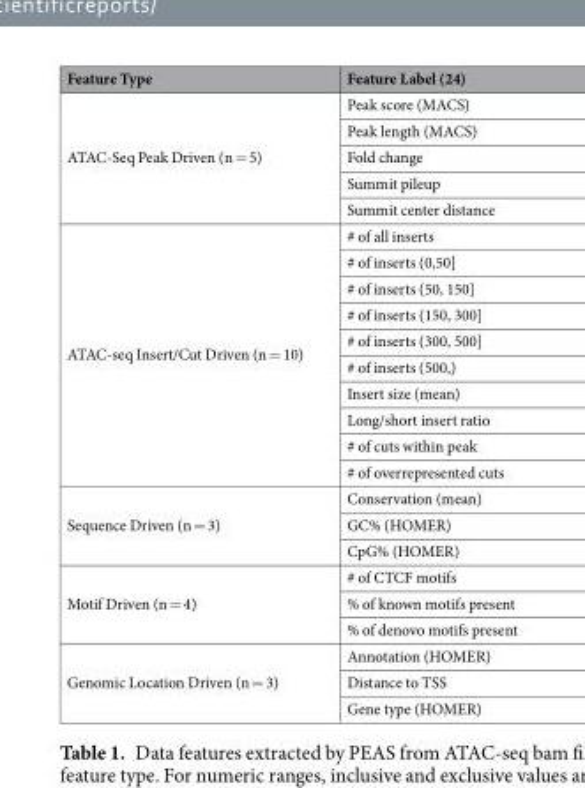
<table><thead><tr><td>Feature Type</td><td>Feature Label (24)</td></tr></thead><tbody><tr><td rowspan="5">ATAC-Seq Peak Driven (n = 5)</td><td>Peak score (MACS)</td></tr><tr><td>Peak length (MACS)</td></tr><tr><td>Fold change</td></tr><tr><td>Summit pileup</td></tr><tr><td>Summit center distance</td></tr><tr><td rowspan="10">ATAC-seq Insert/Cut Driven (n = 10)</td><td># of all inserts</td></tr><tr><td># of inserts (0,50]</td></tr><tr><td># of inserts (50, 150]</td></tr><tr><td># of inserts (150, 300]</td></tr><tr><td># of inserts (300, 500]</td></tr><tr><td># of inserts (500,)</td></tr><tr><td>Insert size (mean)</td></tr><tr><td>Long/short insert ratio</td></tr><tr><td># of cuts within peak</td></tr><tr><td># of overrepresented cuts</td></tr><tr><td rowspan="3">Sequence Driven (n = 3)</td><td>Conservation (mean)</td></tr><tr><td>GC% (HOMER)</td></tr><tr><td>CpG% (HOMER)</td></tr><tr><td rowspan="3">Motif Driven (n = 4)</td><td># of CTCF motifs</td></tr><tr><td>% of known motifs present</td></tr><tr><td>% of denovo motifs present</td></tr><tr><td rowspan="3">Genomic Location Driven (n = 3)</td><td>Annotation (HOMER)</td></tr><tr><td>Distance to TSS</td></tr><tr><td>Gene type (HOMER)</td></tr></tbody></table>